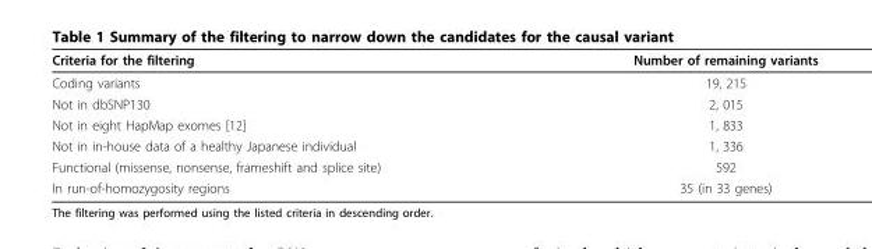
<table><thead><tr><td>Criteria for the filtering</td><td>Number of remaining variants</td></tr></thead><tbody><tr><td>Coding variants</td><td>19, 215</td></tr><tr><td>Not in dbSNP130</td><td>2, 015</td></tr><tr><td>Not in eight HapMap exomes [12]</td><td>1, 833</td></tr><tr><td>Not in in-house data of a healthy Japanese individual</td><td>1, 336</td></tr><tr><td>Functional (missense, nonsense, frameshift and splice site)</td><td>592</td></tr><tr><td>In run-of-homozygosity regions</td><td>35 (in 33 genes)</td></tr></tbody></table>